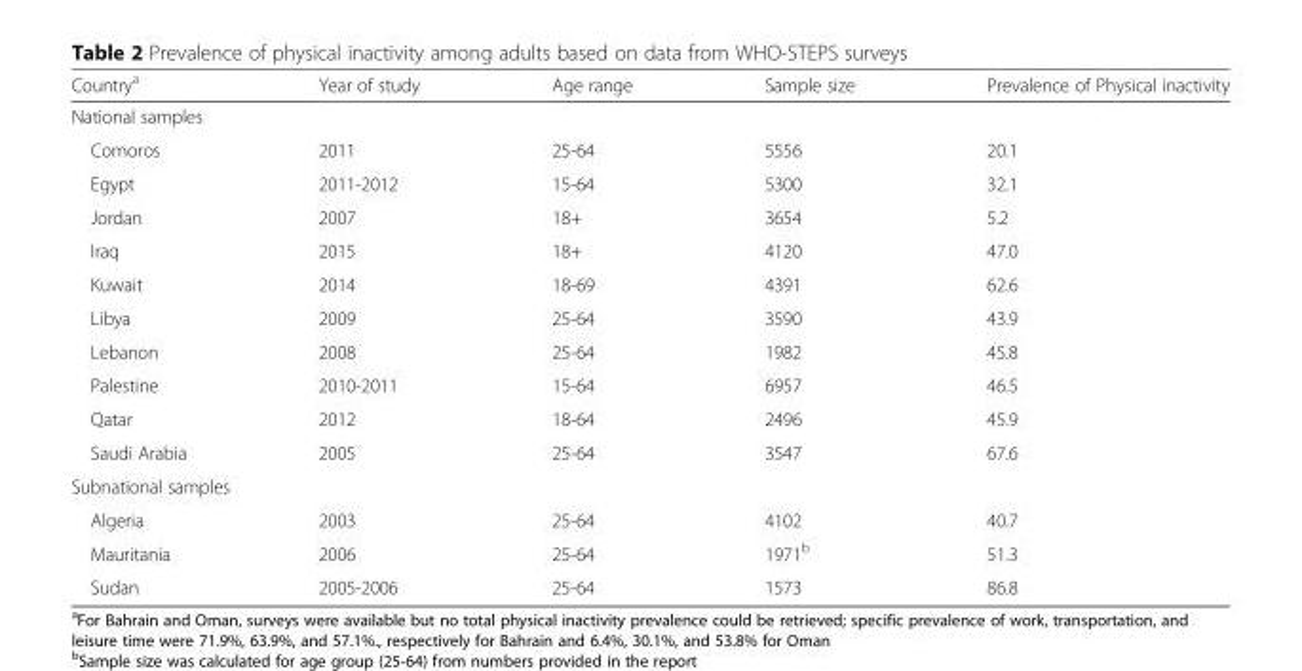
<table><thead><tr><td>Country<sup>a</sup></td><td>Year of study</td><td>Age range</td><td>Sample size</td><td>Prevalence of Physical inactivity</td></tr></thead><tbody><tr><td colspan="5">National samples</td></tr><tr><td>Comoros</td><td>2011</td><td>25-64</td><td>5556</td><td>20.1</td></tr><tr><td>Egypt</td><td>2011-2012</td><td>15-64</td><td>5300</td><td>32.1</td></tr><tr><td>Jordan</td><td>2007</td><td>18+</td><td>3654</td><td>5.2</td></tr><tr><td>Iraq</td><td>2015</td><td>18+</td><td>4120</td><td>47.0</td></tr><tr><td>Kuwait</td><td>2014</td><td>18-69</td><td>4391</td><td>62.6</td></tr><tr><td>Libya</td><td>2009</td><td>25-64</td><td>3590</td><td>43.9</td></tr><tr><td>Lebanon</td><td>2008</td><td>25-64</td><td>1982</td><td>45.8</td></tr><tr><td>Palestine</td><td>2010-2011</td><td>15-64</td><td>6957</td><td>46.5</td></tr><tr><td>Qatar</td><td>2012</td><td>18-64</td><td>2496</td><td>45.9</td></tr><tr><td>Saudi Arabia</td><td>2005</td><td>25-64</td><td>3547</td><td>67.6</td></tr><tr><td colspan="5">Subnational samples</td></tr><tr><td>Algeria</td><td>2003</td><td>25-64</td><td>4102</td><td>40.7</td></tr><tr><td>Mauritania</td><td>2006</td><td>25-64</td><td>1971<sup>b</sup></td><td>51.3</td></tr><tr><td>Sudan</td><td>2005-2006</td><td>25-64</td><td>1573</td><td>86.8</td></tr></tbody></table>